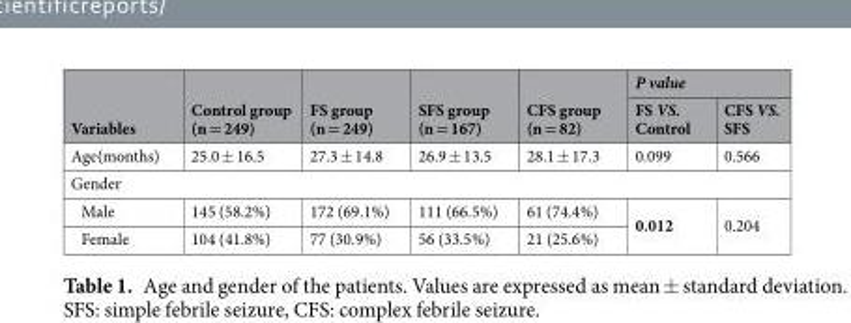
<table><thead><tr><td rowspan="2">Variables</td><td rowspan="2">Control group (n = 249)</td><td rowspan="2">FS group (n = 249)</td><td rowspan="2">SFS group (n = 167)</td><td rowspan="2">CFS group (n = 82)</td><td colspan="2">P value</td></tr><tr><td>FS VS. Control</td><td>CFS VS. SFS</td></tr></thead><tbody><tr><td>Age(months)</td><td>25.0 ± 16.5</td><td>27.3 ± 14.8</td><td>26.9 ± 13.5</td><td>28.1 ± 17.3</td><td>0.099</td><td>0.566</td></tr><tr><td colspan="7">Gender</td></tr><tr><td>Male</td><td>145 (58.2%)</td><td>172 (69.1%)</td><td>111 (66.5%)</td><td>61 (74.4%)</td><td rowspan="2">0.012</td><td rowspan="2">0.204</td></tr><tr><td>Female</td><td>104 (41.8%)</td><td>77 (30.9%)</td><td>56 (33.5%)</td><td>21 (25.6%)</td></tr></tbody></table>